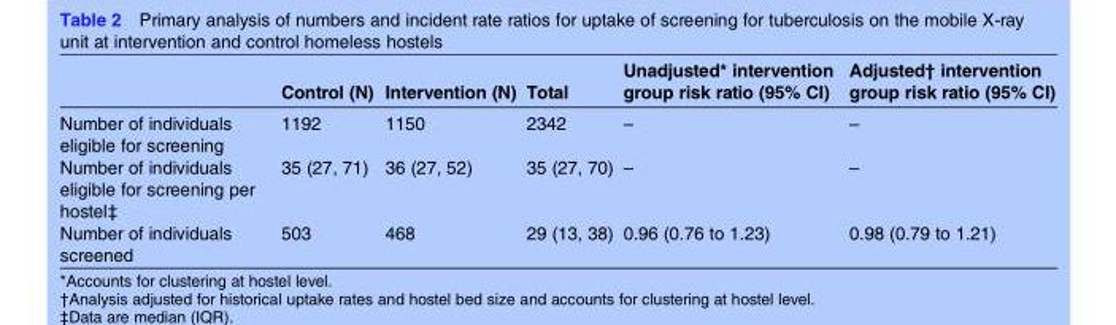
<table><thead><tr><td></td><td>Control (N)</td><td>Intervention (N)</td><td>Total</td><td>Unadjusted* intervention group risk ratio (95% CI)</td><td>Adjusted† intervention group risk ratio (95% CI)</td></tr></thead><tbody><tr><td>Number of individuals eligible for screening</td><td>1192</td><td>1150</td><td>2342</td><td>–</td><td>–</td></tr><tr><td>Number of individuals eligible for screening per hostel‡</td><td>35 (27, 71)</td><td>36 (27, 52)</td><td>35 (27, 70)</td><td>–</td><td>–</td></tr><tr><td>Number of individuals screened</td><td>503</td><td>468</td><td>29 (13, 38)</td><td>0.96 (0.76 to 1.23)</td><td>0.98 (0.79 to 1.21)</td></tr></tbody></table>